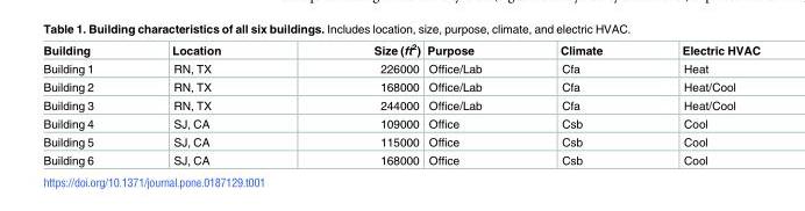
<table><thead><tr><td>Building</td><td>Location</td><td>Size (ft<sup>2</sup>)</td><td>Purpose</td><td>Climate</td><td>Electric HVAC</td></tr></thead><tbody><tr><td>Building 1</td><td>RN, TX</td><td>226000</td><td>Office/Lab</td><td>Cfa</td><td>Heat</td></tr><tr><td>Building 2</td><td>RN, TX</td><td>168000</td><td>Office/Lab</td><td>Cfa</td><td>Heat/Cool</td></tr><tr><td>Building 3</td><td>RN, TX</td><td>244000</td><td>Office/Lab</td><td>Cfa</td><td>Heat/Cool</td></tr><tr><td>Building 4</td><td>SJ, CA</td><td>109000</td><td>Office</td><td>Csb</td><td>Cool</td></tr><tr><td>Building 5</td><td>SJ, CA</td><td>115000</td><td>Office</td><td>Csb</td><td>Cool</td></tr><tr><td>Building 6</td><td>SJ, CA</td><td>168000</td><td>Office</td><td>Csb</td><td>Cool</td></tr></tbody></table>